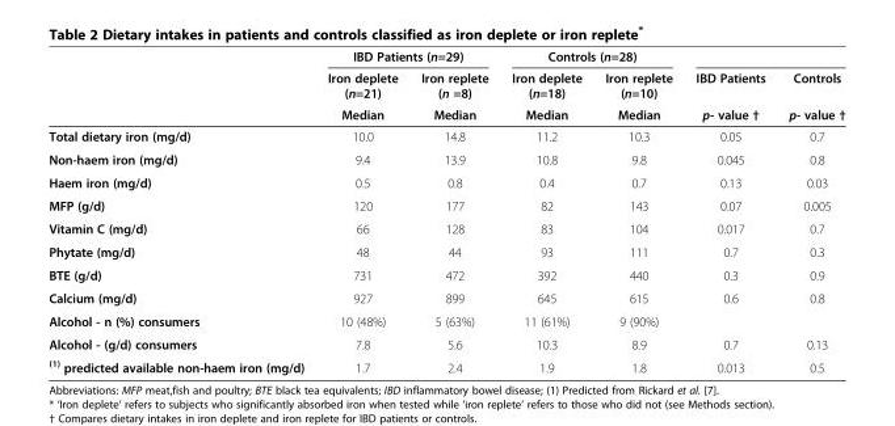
<table><thead><tr><td rowspan="3"></td><td colspan="2">IBD Patients (n=29)</td><td colspan="2">Controls (n=28)</td><td rowspan="3">IBD Patients p- value †</td><td rowspan="3">Controls p- value †</td></tr><tr><td rowspan="2">Iron deplete (n=21) Median</td><td rowspan="2">Iron replete (n =8) Median</td><td rowspan="2">Iron deplete (n=18) Median</td><td rowspan="2">Iron replete (n=10) Median</td></tr><tr></tr></thead><tbody><tr><td>Total dietary iron (mg/d)</td><td>10.0</td><td>14.8</td><td>11.2</td><td>10.3</td><td>0.05</td><td>0.7</td></tr><tr><td>Non-haem iron (mg/d)</td><td>9.4</td><td>13.9</td><td>10.8</td><td>9.8</td><td>0.045</td><td>0.8</td></tr><tr><td>Haem iron (mg/d)</td><td>0.5</td><td>0.8</td><td>0.4</td><td>0.7</td><td>0.13</td><td>0.03</td></tr><tr><td>MFP (g/d)</td><td>120</td><td>177</td><td>82</td><td>143</td><td>0.07</td><td>0.005</td></tr><tr><td>Vitamin C (mg/d)</td><td>66</td><td>128</td><td>83</td><td>104</td><td>0.017</td><td>0.7</td></tr><tr><td>Phytate (mg/d)</td><td>48</td><td>44</td><td>93</td><td>111</td><td>0.7</td><td>0.3</td></tr><tr><td>BTE (g/d)</td><td>731</td><td>472</td><td>392</td><td>440</td><td>0.3</td><td>0.9</td></tr><tr><td>Calcium (mg/d)</td><td>927</td><td>899</td><td>645</td><td>615</td><td>0.6</td><td>0.8</td></tr><tr><td>Alcohol - n (%) consumers</td><td>10 (48%)</td><td>5 (63%)</td><td>11 (61%)</td><td>9 (90%)</td><td></td><td></td></tr><tr><td>Alcohol - (g/d) consumers</td><td>7.8</td><td>5.6</td><td>10.3</td><td>8.9</td><td>0.7</td><td>0.13</td></tr><tr><td><sup>(1)</sup> predicted available non-haem iron (mg/d)</td><td>1.7</td><td>2.4</td><td>1.9</td><td>1.8</td><td>0.013</td><td>0.5</td></tr></tbody></table>